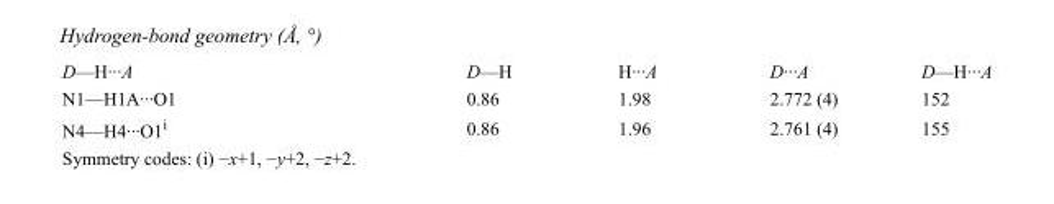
<table><tbody><tr><td>D—H···A</td><td>D—H</td><td>H···A</td><td>D···A</td><td>D—H···A</td></tr><tr><td>N1—H1A···O1</td><td>0.86</td><td>1.98</td><td>2.772 (4)</td><td>152</td></tr><tr><td>N4—H4···O1<sup>i</sup></td><td>0.86</td><td>1.96</td><td>2.761 (4)</td><td>155</td></tr></tbody></table>